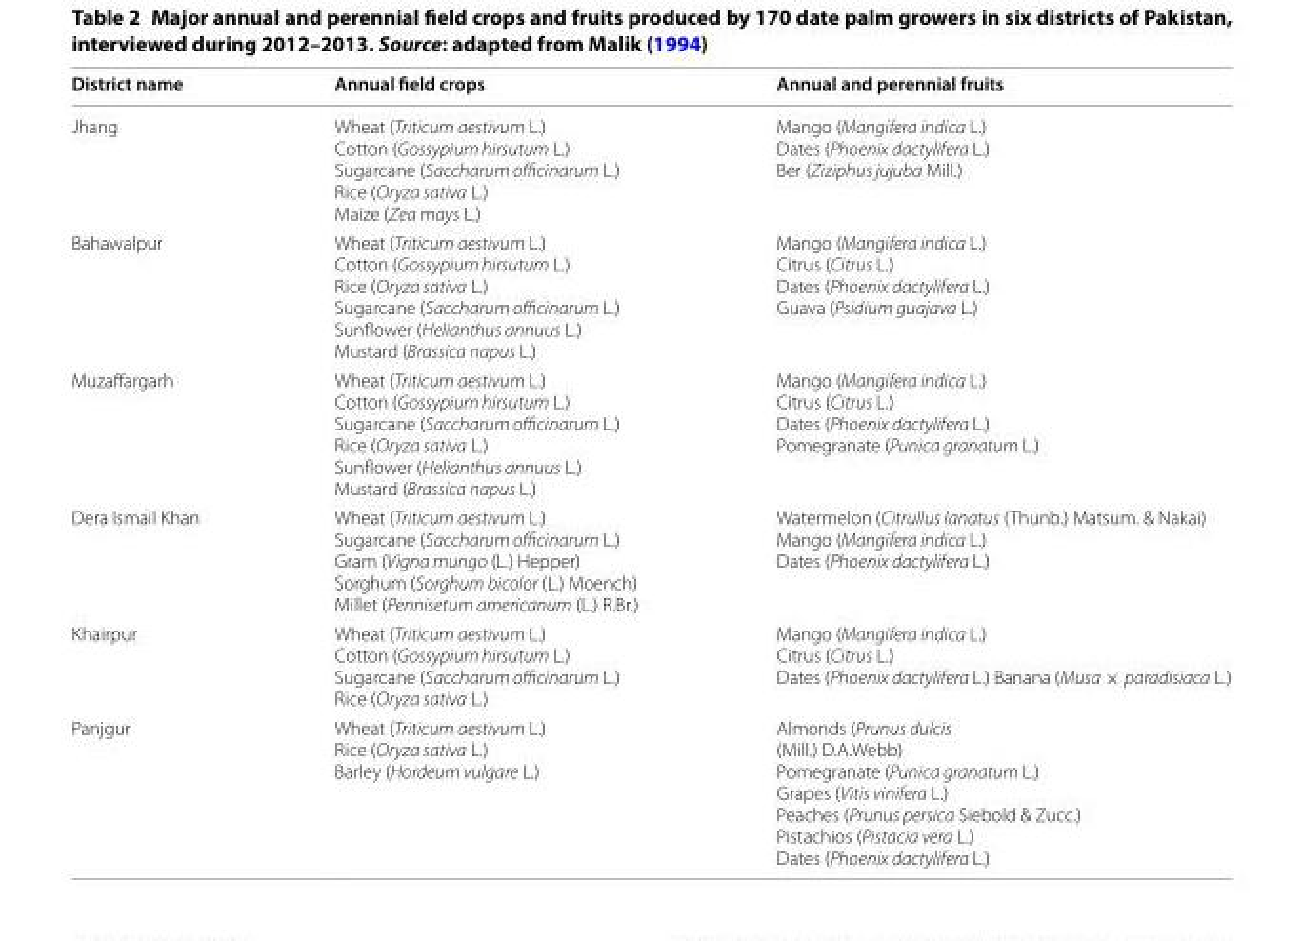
<table><thead><tr><td>District name</td><td>Annual field crops</td><td>Annual and perennial fruits</td></tr></thead><tbody><tr><td>Jhang</td><td>Wheat (Triticum aestivum L.) Cotton (Gossypium hirsutum L.) Sugarcane (Saccharum officinarum L.) Rice (Oryza sativa L.) Maize (Zea mays L.)</td><td>Mango (Mangifera indica L.) Dates (Phoenix dactylifera L.) Ber (Ziziphus jujuba Mill.)</td></tr><tr><td>Bahawalpur</td><td>Wheat (Triticum aestivum L.) Cotton (Gossypium hirsutum L.) Rice (Oryza sativa L.) Sugarcane (Saccharum officinarum L.) Sunflower (Helianthus annuus L.) Mustard (Brassica napus L.)</td><td>Mango (Mangifera indica L.) Citrus (Citrus L.) Dates (Phoenix dactylifera L.) Guava (Psidium guajava L.)</td></tr><tr><td>Muzaffargarh</td><td>Wheat (Triticum aestivum L.) Cotton (Gossypium hirsutum L.) Sugarcane (Saccharum officinarum L.) Rice (Oryza sativa L.) Sunflower (Helianthus annuus L.) Mustard (Brassica napus L.)</td><td>Mango (Mangifera indica L.) Citrus (Citrus L.) Dates (Phoenix dactylifera L.) Pomegranate (Punica granatum L.)</td></tr><tr><td>Dera Ismail Khan</td><td>Wheat (Triticum aestivum L.) Sugarcane (Saccharum officinarum L.) Gram (Vigna mungo (L.) Hepper) Sorghum (Sorghum bicolor (L.) Moench) Millet (Pennisetum americanum (L.) R.Br.)</td><td>Watermelon (Citrullus lanatus (Thunb.) Matsum. &amp; Nakai) Mango (Mangifera indica L.) Dates (Phoenix dactylifera L.)</td></tr><tr><td>Khairpur</td><td>Wheat (Triticum aestivum L.) Cotton (Gossypium hirsutum L.) Sugarcane (Saccharum officinarum L.) Rice (Oryza sativa L.)</td><td>Mango (Mangifera indica L.) Citrus (Citrus L.) Dates (Phoenix dactylifera L.) Banana (Musa × paradisiaca L.)</td></tr><tr><td>Panjgur</td><td>Wheat (Triticum aestivum L.) Rice (Oryza sativa L.) Barley (Hordeum vulgare L.)</td><td>Almonds (Prunus dulcis (Mill.) D.A.Webb) Pomegranate (Punica granatum L.) Grapes (Vitis vinifera L.) Peaches (Prunus persica Siebold &amp; Zucc.) Pistachios (Pistacia vera L.) Dates (Phoenix dactylifera L.)</td></tr></tbody></table>